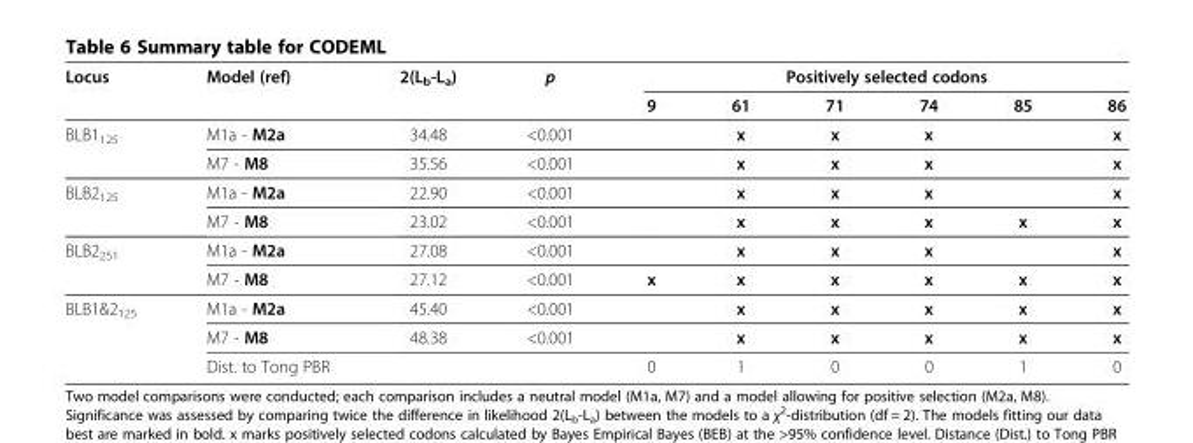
<table><thead><tr><td rowspan="2">Locus</td><td rowspan="2">Model (ref)</td><td rowspan="2">2(L<sub>b</sub>-L<sub>a</sub>)</td><td rowspan="2">p</td><td colspan="6">Positively selected codons</td></tr><tr><td>9</td><td>61</td><td>71</td><td>74</td><td>85</td><td>86</td></tr></thead><tbody><tr><td rowspan="2">BLB1<sub>125</sub></td><td>M1a - M2a</td><td>34.48</td><td>&lt;0.001</td><td></td><td>x</td><td>x</td><td>x</td><td></td><td>x</td></tr><tr><td>M7 - M8</td><td>35.56</td><td>&lt;0.001</td><td></td><td>x</td><td>x</td><td>x</td><td></td><td>x</td></tr><tr><td rowspan="2">BLB2<sub>125</sub></td><td>M1a - M2a</td><td>22.90</td><td>&lt;0.001</td><td></td><td>x</td><td>x</td><td>x</td><td></td><td>x</td></tr><tr><td>M7 - M8</td><td>23.02</td><td>&lt;0.001</td><td></td><td>x</td><td>x</td><td>x</td><td>x</td><td>x</td></tr><tr><td rowspan="2">BLB2<sub>251</sub></td><td>M1a - M2a</td><td>27.08</td><td>&lt;0.001</td><td></td><td>x</td><td>x</td><td>x</td><td></td><td>x</td></tr><tr><td>M7 - M8</td><td>27.12</td><td>&lt;0.001</td><td>x</td><td>x</td><td>x</td><td>x</td><td>x</td><td>x</td></tr><tr><td rowspan="3">BLB1&amp;2<sub>125</sub></td><td>M1a - M2a</td><td>45.40</td><td>&lt;0.001</td><td></td><td>x</td><td>x</td><td>x</td><td>x</td><td>x</td></tr><tr><td>M7 - M8</td><td>48.38</td><td>&lt;0.001</td><td></td><td>x</td><td>x</td><td>x</td><td>x</td><td>x</td></tr><tr><td>Dist. to Tong PBR</td><td></td><td></td><td>0</td><td>1</td><td>0</td><td>0</td><td>1</td><td>0</td></tr></tbody></table>